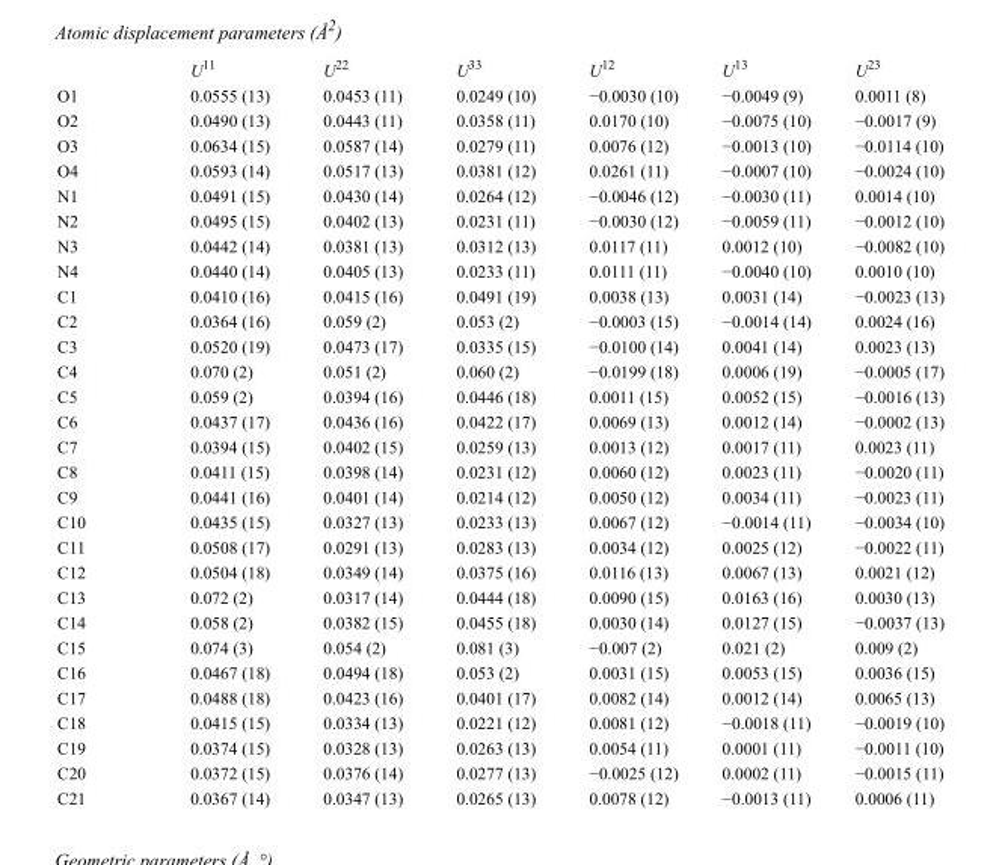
<table><thead><tr><td></td><td>U<sup>11</sup></td><td>U<sup>22</sup></td><td>U<sup>33</sup></td><td>U<sup>12</sup></td><td>U<sup>13</sup></td><td>U<sup>23</sup></td></tr></thead><tbody><tr><td>O1</td><td>0.0555 (13)</td><td>0.0453 (11)</td><td>0.0249 (10)</td><td>−0.0030 (10)</td><td>−0.0049 (9)</td><td>0.0011 (8)</td></tr><tr><td>O2</td><td>0.0490 (13)</td><td>0.0443 (11)</td><td>0.0358 (11)</td><td>0.0170 (10)</td><td>−0.0075 (10)</td><td>−0.0017 (9)</td></tr><tr><td>O3</td><td>0.0634 (15)</td><td>0.0587 (14)</td><td>0.0279 (11)</td><td>0.0076 (12)</td><td>−0.0013 (10)</td><td>−0.0114 (10)</td></tr><tr><td>O4</td><td>0.0593 (14)</td><td>0.0517 (13)</td><td>0.0381 (12)</td><td>0.0261 (11)</td><td>−0.0007 (10)</td><td>−0.0024 (10)</td></tr><tr><td>N1</td><td>0.0491 (15)</td><td>0.0430 (14)</td><td>0.0264 (12)</td><td>−0.0046 (12)</td><td>−0.0030 (11)</td><td>0.0014 (10)</td></tr><tr><td>N2</td><td>0.0495 (15)</td><td>0.0402 (13)</td><td>0.0231 (11)</td><td>−0.0030 (12)</td><td>−0.0059 (11)</td><td>−0.0012 (10)</td></tr><tr><td>N3</td><td>0.0442 (14)</td><td>0.0381 (13)</td><td>0.0312 (13)</td><td>0.0117 (11)</td><td>0.0012 (10)</td><td>−0.0082 (10)</td></tr><tr><td>N4</td><td>0.0440 (14)</td><td>0.0405 (13)</td><td>0.0233 (11)</td><td>0.0111 (11)</td><td>−0.0040 (10)</td><td>0.0010 (10)</td></tr><tr><td>C1</td><td>0.0410 (16)</td><td>0.0415 (16)</td><td>0.0491 (19)</td><td>0.0038 (13)</td><td>0.0031 (14)</td><td>−0.0023 (13)</td></tr><tr><td>C2</td><td>0.0364 (16)</td><td>0.059 (2)</td><td>0.053 (2)</td><td>−0.0003 (15)</td><td>−0.0014 (14)</td><td>0.0024 (16)</td></tr><tr><td>C3</td><td>0.0520 (19)</td><td>0.0473 (17)</td><td>0.0335 (15)</td><td>−0.0100 (14)</td><td>0.0041 (14)</td><td>0.0023 (13)</td></tr><tr><td>C4</td><td>0.070 (2)</td><td>0.051 (2)</td><td>0.060 (2)</td><td>−0.0199 (18)</td><td>0.0006 (19)</td><td>−0.0005 (17)</td></tr><tr><td>C5</td><td>0.059 (2)</td><td>0.0394 (16)</td><td>0.0446 (18)</td><td>0.0011 (15)</td><td>0.0052 (15)</td><td>−0.0016 (13)</td></tr><tr><td>C6</td><td>0.0437 (17)</td><td>0.0436 (16)</td><td>0.0422 (17)</td><td>0.0069 (13)</td><td>0.0012 (14)</td><td>−0.0002 (13)</td></tr><tr><td>C7</td><td>0.0394 (15)</td><td>0.0402 (15)</td><td>0.0259 (13)</td><td>0.0013 (12)</td><td>0.0017 (11)</td><td>0.0023 (11)</td></tr><tr><td>C8</td><td>0.0411 (15)</td><td>0.0398 (14)</td><td>0.0231 (12)</td><td>0.0060 (12)</td><td>0.0023 (11)</td><td>−0.0020 (11)</td></tr><tr><td>C9</td><td>0.0441 (16)</td><td>0.0401 (14)</td><td>0.0214 (12)</td><td>0.0050 (12)</td><td>0.0034 (11)</td><td>−0.0023 (11)</td></tr><tr><td>C10</td><td>0.0435 (15)</td><td>0.0327 (13)</td><td>0.0233 (13)</td><td>0.0067 (12)</td><td>−0.0014 (11)</td><td>−0.0034 (10)</td></tr><tr><td>C11</td><td>0.0508 (17)</td><td>0.0291 (13)</td><td>0.0283 (13)</td><td>0.0034 (12)</td><td>0.0025 (12)</td><td>−0.0022 (11)</td></tr><tr><td>C12</td><td>0.0504 (18)</td><td>0.0349 (14)</td><td>0.0375 (16)</td><td>0.0116 (13)</td><td>0.0067 (13)</td><td>0.0021 (12)</td></tr><tr><td>C13</td><td>0.072 (2)</td><td>0.0317 (14)</td><td>0.0444 (18)</td><td>0.0090 (15)</td><td>0.0163 (16)</td><td>0.0030 (13)</td></tr><tr><td>C14</td><td>0.058 (2)</td><td>0.0382 (15)</td><td>0.0455 (18)</td><td>0.0030 (14)</td><td>0.0127 (15)</td><td>−0.0037 (13)</td></tr><tr><td>C15</td><td>0.074 (3)</td><td>0.054 (2)</td><td>0.081 (3)</td><td>−0.007 (2)</td><td>0.021 (2)</td><td>0.009 (2)</td></tr><tr><td>C16</td><td>0.0467 (18)</td><td>0.0494 (18)</td><td>0.053 (2)</td><td>0.0031 (15)</td><td>0.0053 (15)</td><td>0.0036 (15)</td></tr><tr><td>C17</td><td>0.0488 (18)</td><td>0.0423 (16)</td><td>0.0401 (17)</td><td>0.0082 (14)</td><td>0.0012 (14)</td><td>0.0065 (13)</td></tr><tr><td>C18</td><td>0.0415 (15)</td><td>0.0334 (13)</td><td>0.0221 (12)</td><td>0.0081 (12)</td><td>−0.0018 (11)</td><td>−0.0019 (10)</td></tr><tr><td>C19</td><td>0.0374 (15)</td><td>0.0328 (13)</td><td>0.0263 (13)</td><td>0.0054 (11)</td><td>0.0001 (11)</td><td>−0.0011 (10)</td></tr><tr><td>C20</td><td>0.0372 (15)</td><td>0.0376 (14)</td><td>0.0277 (13)</td><td>−0.0025 (12)</td><td>0.0002 (11)</td><td>−0.0015 (11)</td></tr><tr><td>C21</td><td>0.0367 (14)</td><td>0.0347 (13)</td><td>0.0265 (13)</td><td>0.0078 (12)</td><td>−0.0013 (11)</td><td>0.0006 (11)</td></tr></tbody></table>